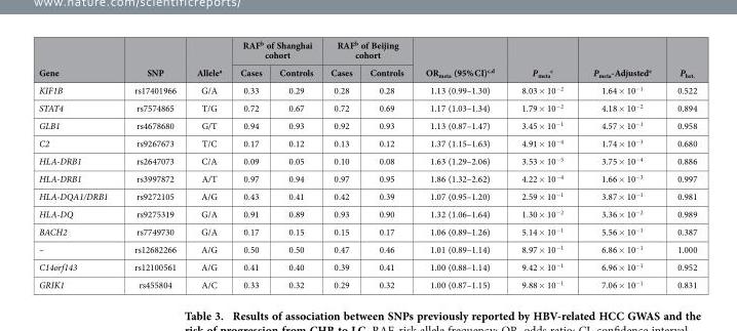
<table><thead><tr><td rowspan="2">Gene</td><td rowspan="2">SNP</td><td rowspan="2">Allele<sup>a</sup></td><td colspan="2">RAF<sup>b</sup> of Shanghai cohort</td><td colspan="2">RAF<sup>b</sup> of Beijing cohort</td><td rowspan="2">OR<sub>meta</sub> (95% CI)<sup>c</sup>,<sup>d</sup></td><td rowspan="2">P<sub>meta</sub> <sup>c</sup></td><td rowspan="2">P<sub>meta</sub>-Adjusted<sup>e</sup></td><td rowspan="2">P<sub>het.</sub></td></tr><tr><td>Cases</td><td>Controls</td><td>Cases</td><td>Controls</td></tr></thead><tbody><tr><td>KIF1B</td><td>rs17401966</td><td>G/A</td><td>0.33</td><td>0.29</td><td>0.28</td><td>0.28</td><td>1.13 (0.99–1.30)</td><td>8.03 × 10<sup>−2</sup></td><td>1.64 × 10<sup>−1</sup></td><td>0.522</td></tr><tr><td>STAT4</td><td>rs7574865</td><td>T/G</td><td>0.72</td><td>0.67</td><td>0.72</td><td>0.69</td><td>1.17 (1.03–1.34)</td><td>1.79 × 10<sup>−2</sup></td><td>4.18 × 10<sup>−2</sup></td><td>0.894</td></tr><tr><td>GLB1</td><td>rs4678680</td><td>G/T</td><td>0.94</td><td>0.93</td><td>0.92</td><td>0.93</td><td>1.13 (0.87–1.47)</td><td>3.45 × 10<sup>−1</sup></td><td>4.57 × 10<sup>−1</sup></td><td>0.958</td></tr><tr><td>C2</td><td>rs9267673</td><td>T/C</td><td>0.17</td><td>0.12</td><td>0.13</td><td>0.12</td><td>1.37 (1.15–1.63)</td><td>4.91 × 10<sup>−4</sup></td><td>1.74 × 10<sup>−3</sup></td><td>0.680</td></tr><tr><td>HLA-DRB1</td><td>rs2647073</td><td>C/A</td><td>0.09</td><td>0.05</td><td>0.10</td><td>0.08</td><td>1.63 (1.29–2.06)</td><td>3.53 × 10<sup>−5</sup></td><td>3.75 × 10<sup>−4</sup></td><td>0.886</td></tr><tr><td>HLA-DRB1</td><td>rs3997872</td><td>A/T</td><td>0.97</td><td>0.94</td><td>0.97</td><td>0.95</td><td>1.86 (1.32–2.62)</td><td>4.22 × 10<sup>−4</sup></td><td>1.66 × 10<sup>−3</sup></td><td>0.997</td></tr><tr><td>HLA-DQA1/DRB1</td><td>rs9272105</td><td>A/G</td><td>0.43</td><td>0.41</td><td>0.42</td><td>0.39</td><td>1.07 (0.95–1.20)</td><td>2.59 × 10<sup>−1</sup></td><td>3.87 × 10<sup>−1</sup></td><td>0.981</td></tr><tr><td>HLA-DQ</td><td>rs9275319</td><td>G/A</td><td>0.91</td><td>0.89</td><td>0.93</td><td>0.90</td><td>1.32 (1.06–1.64)</td><td>1.30 × 10<sup>−2</sup></td><td>3.36 × 10<sup>−2</sup></td><td>0.989</td></tr><tr><td>BACH2</td><td>rs7749730</td><td>G/A</td><td>0.17</td><td>0.15</td><td>0.15</td><td>0.17</td><td>1.06 (0.89–1.26)</td><td>5.14 × 10<sup>−1</sup></td><td>5.56 × 10<sup>−1</sup></td><td>0.387</td></tr><tr><td>–</td><td>rs12682266</td><td>A/G</td><td>0.50</td><td>0.50</td><td>0.47</td><td>0.46</td><td>1.01 (0.89–1.14)</td><td>8.97 × 10<sup>−1</sup></td><td>6.86 × 10<sup>−1</sup></td><td>1.000</td></tr><tr><td>C14orf143</td><td>rs12100561</td><td>A/G</td><td>0.41</td><td>0.40</td><td>0.39</td><td>0.41</td><td>1.00 (0.88–1.14)</td><td>9.42 × 10<sup>−1</sup></td><td>6.96 × 10<sup>−1</sup></td><td>0.952</td></tr><tr><td>GRIK1</td><td>rs455804</td><td>A/C</td><td>0.33</td><td>0.32</td><td>0.29</td><td>0.32</td><td>1.00 (0.87–1.15)</td><td>9.88 × 10<sup>−1</sup></td><td>7.06 × 10<sup>−1</sup></td><td>0.831</td></tr></tbody></table>